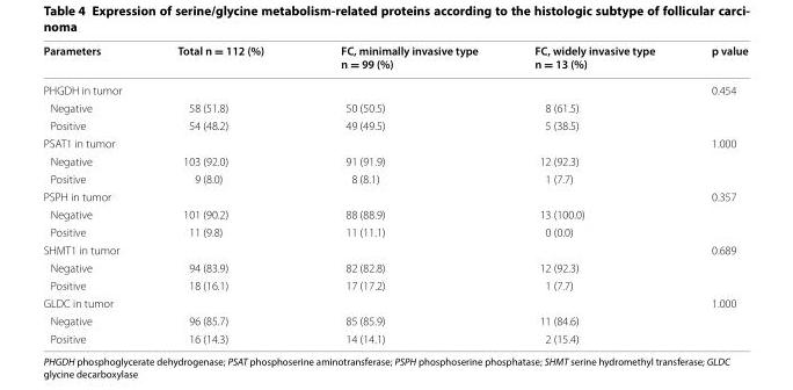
<table><thead><tr><td>Parameters</td><td>Total n = 112 (%)</td><td>FC, minimally invasive type n = 99 (%)</td><td>FC, widely invasive type n = 13 (%)</td><td>p value</td></tr></thead><tbody><tr><td colspan="4">PHGDH in tumor</td><td>0.454</td></tr><tr><td>Negative</td><td>58 (51.8)</td><td>50 (50.5)</td><td>8 (61.5)</td><td></td></tr><tr><td>Positive</td><td>54 (48.2)</td><td>49 (49.5)</td><td>5 (38.5)</td><td></td></tr><tr><td colspan="4">PSAT1 in tumor</td><td>1.000</td></tr><tr><td>Negative</td><td>103 (92.0)</td><td>91 (91.9)</td><td>12 (92.3)</td><td></td></tr><tr><td>Positive</td><td>9 (8.0)</td><td>8 (8.1)</td><td>1 (7.7)</td><td></td></tr><tr><td colspan="4">PSPH in tumor</td><td>0.357</td></tr><tr><td>Negative</td><td>101 (90.2)</td><td>88 (88.9)</td><td>13 (100.0)</td><td></td></tr><tr><td>Positive</td><td>11 (9.8)</td><td>11 (11.1)</td><td>0 (0.0)</td><td></td></tr><tr><td colspan="4">SHMT1 in tumor</td><td>0.689</td></tr><tr><td>Negative</td><td>94 (83.9)</td><td>82 (82.8)</td><td>12 (92.3)</td><td></td></tr><tr><td>Positive</td><td>18 (16.1)</td><td>17 (17.2)</td><td>1 (7.7)</td><td></td></tr><tr><td colspan="4">GLDC in tumor</td><td>1.000</td></tr><tr><td>Negative</td><td>96 (85.7)</td><td>85 (85.9)</td><td>11 (84.6)</td><td></td></tr><tr><td>Positive</td><td>16 (14.3)</td><td>14 (14.1)</td><td>2 (15.4)</td><td></td></tr></tbody></table>